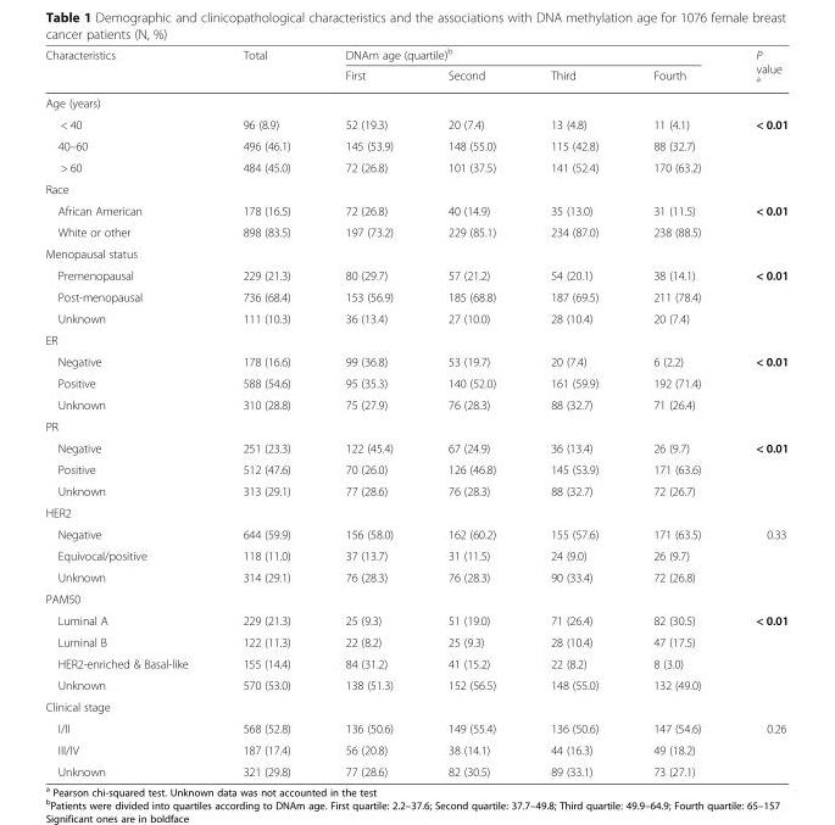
<table><thead><tr><td rowspan="2">Characteristics</td><td rowspan="2">Total</td><td colspan="4">DNAm age (quartile)<sup>b</sup></td><td rowspan="2">P value <sup>a</sup></td></tr><tr><td>First</td><td>Second</td><td>Third</td><td>Fourth</td></tr></thead><tbody><tr><td colspan="7">Age (years)</td></tr><tr><td>&lt; 40</td><td>96 (8.9)</td><td>52 (19.3)</td><td>20 (7.4)</td><td>13 (4.8)</td><td>11 (4.1)</td><td rowspan="3">&lt; 0.01</td></tr><tr><td>40–60</td><td>496 (46.1)</td><td>145 (53.9)</td><td>148 (55.0)</td><td>115 (42.8)</td><td>88 (32.7)</td></tr><tr><td>&gt; 60</td><td>484 (45.0)</td><td>72 (26.8)</td><td>101 (37.5)</td><td>141 (52.4)</td><td>170 (63.2)</td></tr><tr><td colspan="7">Race</td></tr><tr><td>African American</td><td>178 (16.5)</td><td>72 (26.8)</td><td>40 (14.9)</td><td>35 (13.0)</td><td>31 (11.5)</td><td rowspan="2">&lt; 0.01</td></tr><tr><td>White or other</td><td>898 (83.5)</td><td>197 (73.2)</td><td>229 (85.1)</td><td>234 (87.0)</td><td>238 (88.5)</td></tr><tr><td colspan="7">Menopausal status</td></tr><tr><td>Premenopausal</td><td>229 (21.3)</td><td>80 (29.7)</td><td>57 (21.2)</td><td>54 (20.1)</td><td>38 (14.1)</td><td rowspan="2">&lt; 0.01</td></tr><tr><td>Post-menopausal</td><td>736 (68.4)</td><td>153 (56.9)</td><td>185 (68.8)</td><td>187 (69.5)</td><td>211 (78.4)</td></tr><tr><td>Unknown</td><td>111 (10.3)</td><td>36 (13.4)</td><td>27 (10.0)</td><td>28 (10.4)</td><td>20 (7.4)</td><td></td></tr><tr><td colspan="7">ER</td></tr><tr><td>Negative</td><td>178 (16.6)</td><td>99 (36.8)</td><td>53 (19.7)</td><td>20 (7.4)</td><td>6 (2.2)</td><td rowspan="2">&lt; 0.01</td></tr><tr><td>Positive</td><td>588 (54.6)</td><td>95 (35.3)</td><td>140 (52.0)</td><td>161 (59.9)</td><td>192 (71.4)</td></tr><tr><td>Unknown</td><td>310 (28.8)</td><td>75 (27.9)</td><td>76 (28.3)</td><td>88 (32.7)</td><td>71 (26.4)</td><td></td></tr><tr><td colspan="7">PR</td></tr><tr><td>Negative</td><td>251 (23.3)</td><td>122 (45.4)</td><td>67 (24.9)</td><td>36 (13.4)</td><td>26 (9.7)</td><td rowspan="2">&lt; 0.01</td></tr><tr><td>Positive</td><td>512 (47.6)</td><td>70 (26.0)</td><td>126 (46.8)</td><td>145 (53.9)</td><td>171 (63.6)</td></tr><tr><td>Unknown</td><td>313 (29.1)</td><td>77 (28.6)</td><td>76 (28.3)</td><td>88 (32.7)</td><td>72 (26.7)</td><td></td></tr><tr><td colspan="7">HER2</td></tr><tr><td>Negative</td><td>644 (59.9)</td><td>156 (58.0)</td><td>162 (60.2)</td><td>155 (57.6)</td><td>171 (63.5)</td><td rowspan="2">0.33</td></tr><tr><td>Equivocal/positive</td><td>118 (11.0)</td><td>37 (13.7)</td><td>31 (11.5)</td><td>24 (9.0)</td><td>26 (9.7)</td></tr><tr><td>Unknown</td><td>314 (29.1)</td><td>76 (28.3)</td><td>76 (28.3)</td><td>90 (33.4)</td><td>72 (26.8)</td><td></td></tr><tr><td colspan="7">PAM50</td></tr><tr><td>Luminal A</td><td>229 (21.3)</td><td>25 (9.3)</td><td>51 (19.0)</td><td>71 (26.4)</td><td>82 (30.5)</td><td rowspan="3">&lt; 0.01</td></tr><tr><td>Luminal B</td><td>122 (11.3)</td><td>22 (8.2)</td><td>25 (9.3)</td><td>28 (10.4)</td><td>47 (17.5)</td></tr><tr><td>HER2-enriched &amp; Basal-like</td><td>155 (14.4)</td><td>84 (31.2)</td><td>41 (15.2)</td><td>22 (8.2)</td><td>8 (3.0)</td></tr><tr><td>Unknown</td><td>570 (53.0)</td><td>138 (51.3)</td><td>152 (56.5)</td><td>148 (55.0)</td><td>132 (49.0)</td><td></td></tr><tr><td colspan="7">Clinical stage</td></tr><tr><td>I/II</td><td>568 (52.8)</td><td>136 (50.6)</td><td>149 (55.4)</td><td>136 (50.6)</td><td>147 (54.6)</td><td rowspan="2">0.26</td></tr><tr><td>III/IV</td><td>187 (17.4)</td><td>56 (20.8)</td><td>38 (14.1)</td><td>44 (16.3)</td><td>49 (18.2)</td></tr><tr><td>Unknown</td><td>321 (29.8)</td><td>77 (28.6)</td><td>82 (30.5)</td><td>89 (33.1)</td><td>73 (27.1)</td><td></td></tr></tbody></table>